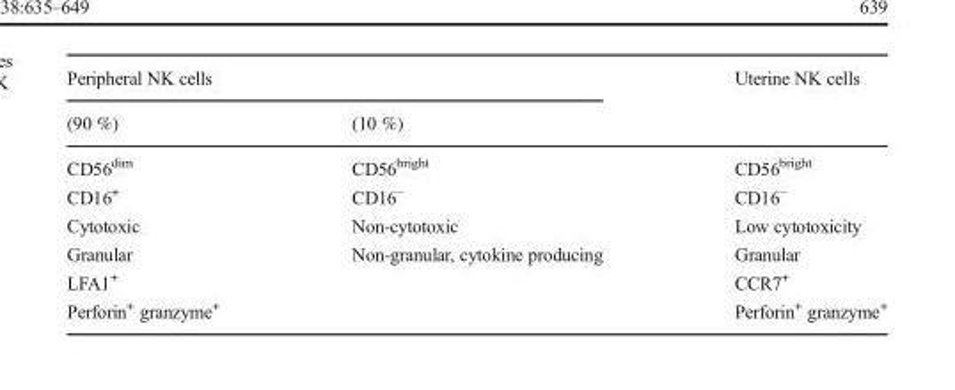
<table><thead><tr><td colspan="2">Peripheral NK cells</td><td rowspan="2">Uterine NK cells</td></tr><tr><td>(90 %)</td><td>(10 %)</td></tr></thead><tbody><tr><td>CD56<sup>dim</sup></td><td>CD56<sup>bright</sup></td><td>CD56<sup>bright</sup></td></tr><tr><td>CD16<sup>+</sup></td><td>CD16<sup>−</sup></td><td>CD16<sup>−</sup></td></tr><tr><td>Cytotoxic</td><td>Non-cytotoxic</td><td>Low cytotoxicity</td></tr><tr><td>Granular</td><td>Non-granular, cytokine producing</td><td>Granular</td></tr><tr><td>LFA1<sup>+</sup></td><td></td><td>CCR7<sup>+</sup></td></tr><tr><td>Perforin<sup>+</sup> granzyme<sup>+</sup></td><td></td><td>Perforin<sup>+</sup> granzyme<sup>+</sup></td></tr></tbody></table>